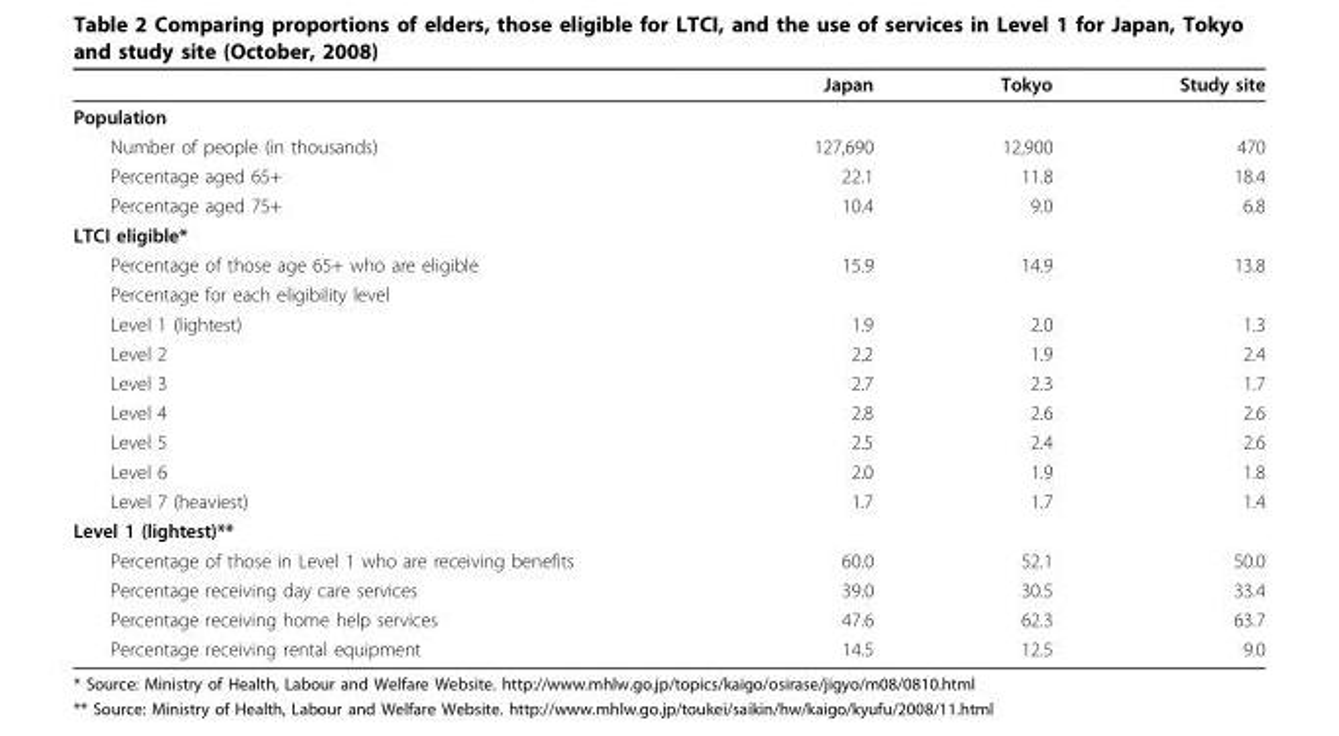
<table><thead><tr><td></td><td>Japan</td><td>Tokyo</td><td>Study site</td></tr></thead><tbody><tr><td colspan="4">Population</td></tr><tr><td>Number of people (in thousands)</td><td>127,690</td><td>12,900</td><td>470</td></tr><tr><td>Percentage aged 65+</td><td>22.1</td><td>11.8</td><td>18.4</td></tr><tr><td>Percentage aged 75+</td><td>10.4</td><td>9.0</td><td>6.8</td></tr><tr><td colspan="4">LTCI eligible*</td></tr><tr><td>Percentage of those age 65+ who are eligible</td><td>15.9</td><td>14.9</td><td>13.8</td></tr><tr><td colspan="4">Percentage for each eligibility level</td></tr><tr><td>Level 1 (lightest)</td><td>1.9</td><td>2.0</td><td>1.3</td></tr><tr><td>Level 2</td><td>2.2</td><td>1.9</td><td>2.4</td></tr><tr><td>Level 3</td><td>2.7</td><td>2.3</td><td>1.7</td></tr><tr><td>Level 4</td><td>2.8</td><td>2.6</td><td>2.6</td></tr><tr><td>Level 5</td><td>2.5</td><td>2.4</td><td>2.6</td></tr><tr><td>Level 6</td><td>2.0</td><td>1.9</td><td>1.8</td></tr><tr><td>Level 7 (heaviest)</td><td>1.7</td><td>1.7</td><td>1.4</td></tr><tr><td colspan="4">Level 1 (lightest)**</td></tr><tr><td>Percentage of those in Level 1 who are receiving benefits</td><td>60.0</td><td>52.1</td><td>50.0</td></tr><tr><td>Percentage receiving day care services</td><td>39.0</td><td>30.5</td><td>33.4</td></tr><tr><td>Percentage receiving home help services</td><td>47.6</td><td>62.3</td><td>63.7</td></tr><tr><td>Percentage receiving rental equipment</td><td>14.5</td><td>12.5</td><td>9.0</td></tr></tbody></table>